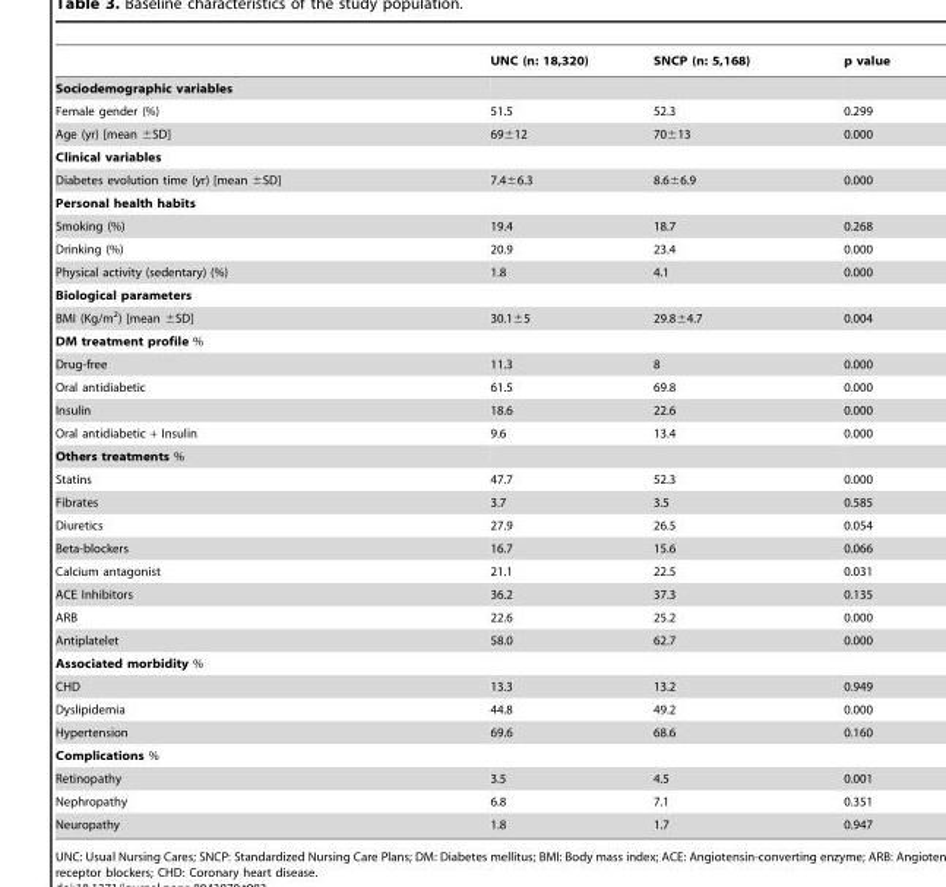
<table><thead><tr><td></td><td>UNC (n: 18,320)</td><td>SNCP (n: 5,168)</td><td>p value</td></tr></thead><tbody><tr><td colspan="4">Sociodemographic variables</td></tr><tr><td>Female gender (%)</td><td>51.5</td><td>52.3</td><td>0.299</td></tr><tr><td>Age (yr) [mean ±SD]</td><td>69±12</td><td>70±13</td><td>0.000</td></tr><tr><td colspan="4">Clinical variables</td></tr><tr><td>Diabetes evolution time (yr) [mean ±SD]</td><td>7.4±6.3</td><td>8.6±6.9</td><td>0.000</td></tr><tr><td colspan="4">Personal health habits</td></tr><tr><td>Smoking (%)</td><td>19.4</td><td>18.7</td><td>0.268</td></tr><tr><td>Drinking (%)</td><td>20.9</td><td>23.4</td><td>0.000</td></tr><tr><td>Physical activity (sedentary) (%)</td><td>1.8</td><td>4.1</td><td>0.000</td></tr><tr><td colspan="4">Biological parameters</td></tr><tr><td>BMI (Kg/m<sup>2</sup>) [mean ±SD]</td><td>30.1±5</td><td>29.8±4.7</td><td>0.004</td></tr><tr><td colspan="4">DM treatment profile %</td></tr><tr><td>Drug-free</td><td>11.3</td><td>8</td><td>0.000</td></tr><tr><td>Oral antidiabetic</td><td>61.5</td><td>69.8</td><td>0.000</td></tr><tr><td>Insulin</td><td>18.6</td><td>22.6</td><td>0.000</td></tr><tr><td>Oral antidiabetic + Insulin</td><td>9.6</td><td>13.4</td><td>0.000</td></tr><tr><td colspan="4">Others treatments %</td></tr><tr><td>Statins</td><td>47.7</td><td>52.3</td><td>0.000</td></tr><tr><td>Fibrates</td><td>3.7</td><td>3.5</td><td>0.585</td></tr><tr><td>Diuretics</td><td>27.9</td><td>26.5</td><td>0.054</td></tr><tr><td>Beta-blockers</td><td>16.7</td><td>15.6</td><td>0.066</td></tr><tr><td>Calcium antagonist</td><td>21.1</td><td>22.5</td><td>0.031</td></tr><tr><td>ACE Inhibitors</td><td>36.2</td><td>37.3</td><td>0.135</td></tr><tr><td>ARB</td><td>22.6</td><td>25.2</td><td>0.000</td></tr><tr><td>Antiplatelet</td><td>58.0</td><td>62.7</td><td>0.000</td></tr><tr><td colspan="4">Associated morbidity %</td></tr><tr><td>CHD</td><td>13.3</td><td>13.2</td><td>0.949</td></tr><tr><td>Dyslipidemia</td><td>44.8</td><td>49.2</td><td>0.000</td></tr><tr><td>Hypertension</td><td>69.6</td><td>68.6</td><td>0.160</td></tr><tr><td colspan="4">Complications %</td></tr><tr><td>Retinopathy</td><td>3.5</td><td>4.5</td><td>0.001</td></tr><tr><td>Nephropathy</td><td>6.8</td><td>7.1</td><td>0.351</td></tr><tr><td>Neuropathy</td><td>1.8</td><td>1.7</td><td>0.947</td></tr></tbody></table>